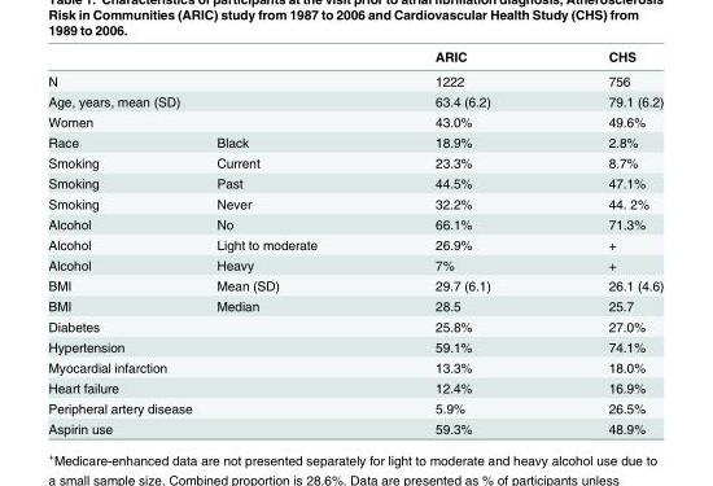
<table><thead><tr><td></td><td></td><td>ARIC</td><td>CHS</td></tr></thead><tbody><tr><td>N</td><td></td><td>1222</td><td>756</td></tr><tr><td colspan="2">Age, years, mean (SD)</td><td>63.4 (6.2)</td><td>79.1 (6.2)</td></tr><tr><td colspan="2">Women</td><td>43.0%</td><td>49.6%</td></tr><tr><td>Race</td><td>Black</td><td>18.9%</td><td>2.8%</td></tr><tr><td>Smoking</td><td>Current</td><td>23.3%</td><td>8.7%</td></tr><tr><td>Smoking</td><td>Past</td><td>44.5%</td><td>47.1%</td></tr><tr><td>Smoking</td><td>Never</td><td>32.2%</td><td>44. 2%</td></tr><tr><td>Alcohol</td><td>No</td><td>66.1%</td><td>71.3%</td></tr><tr><td>Alcohol</td><td>Light to moderate</td><td>26.9%</td><td>+</td></tr><tr><td>Alcohol</td><td>Heavy</td><td>7%</td><td>+</td></tr><tr><td>BMI</td><td>Mean (SD)</td><td>29.7 (6.1)</td><td>26.1 (4.6)</td></tr><tr><td>BMI</td><td>Median</td><td>28.5</td><td>25.7</td></tr><tr><td colspan="2">Diabetes</td><td>25.8%</td><td>27.0%</td></tr><tr><td colspan="2">Hypertension</td><td>59.1%</td><td>74.1%</td></tr><tr><td colspan="2">Myocardial infarction</td><td>13.3%</td><td>18.0%</td></tr><tr><td colspan="2">Heart failure</td><td>12.4%</td><td>16.9%</td></tr><tr><td colspan="2">Peripheral artery disease</td><td>5.9%</td><td>26.5%</td></tr><tr><td colspan="2">Aspirin use</td><td>59.3%</td><td>48.9%</td></tr></tbody></table>